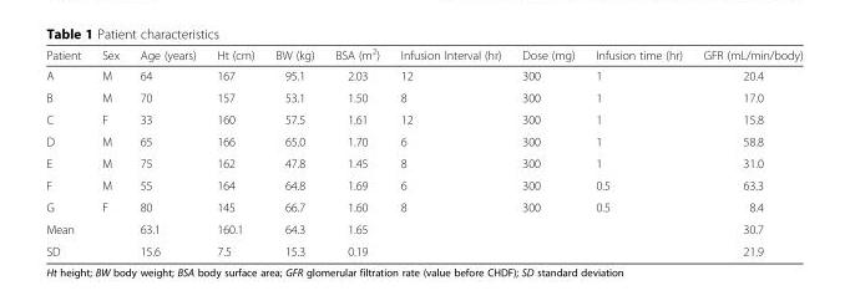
<table><thead><tr><td>Patient</td><td>Sex</td><td>Age (years)</td><td>Ht (cm)</td><td>BW (kg)</td><td>BSA (m<sup>2</sup>)</td><td>Infusion Interval (hr)</td><td>Dose (mg)</td><td>Infusion time (hr)</td><td>GFR (mL/min/body)</td></tr></thead><tbody><tr><td>A</td><td>M</td><td>64</td><td>167</td><td>95.1</td><td>2.03</td><td>12</td><td>300</td><td>1</td><td>20.4</td></tr><tr><td>B</td><td>M</td><td>70</td><td>157</td><td>53.1</td><td>1.50</td><td>8</td><td>300</td><td>1</td><td>17.0</td></tr><tr><td>C</td><td>F</td><td>33</td><td>160</td><td>57.5</td><td>1.61</td><td>12</td><td>300</td><td>1</td><td>15.8</td></tr><tr><td>D</td><td>M</td><td>65</td><td>166</td><td>65.0</td><td>1.70</td><td>6</td><td>300</td><td>1</td><td>58.8</td></tr><tr><td>E</td><td>M</td><td>75</td><td>162</td><td>47.8</td><td>1.45</td><td>8</td><td>300</td><td>1</td><td>31.0</td></tr><tr><td>F</td><td>M</td><td>55</td><td>164</td><td>64.8</td><td>1.69</td><td>6</td><td>300</td><td>0.5</td><td>63.3</td></tr><tr><td>G</td><td>F</td><td>80</td><td>145</td><td>66.7</td><td>1.60</td><td>8</td><td>300</td><td>0.5</td><td>8.4</td></tr><tr><td>Mean</td><td></td><td>63.1</td><td>160.1</td><td>64.3</td><td>1.65</td><td></td><td></td><td></td><td>30.7</td></tr><tr><td>SD</td><td></td><td>15.6</td><td>7.5</td><td>15.3</td><td>0.19</td><td></td><td></td><td></td><td>21.9</td></tr></tbody></table>